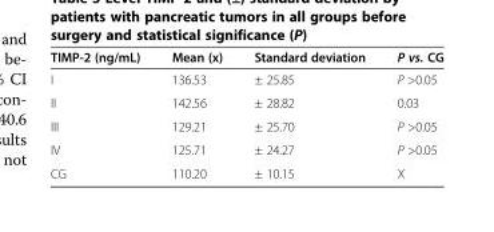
<table><thead><tr><td>TIMP-2 (ng/mL)</td><td>Mean (x)</td><td>Standard deviation</td><td>P vs. CG</td></tr></thead><tbody><tr><td>I</td><td>136.53</td><td>± 25.85</td><td>P &gt;0.05</td></tr><tr><td>II</td><td>142.56</td><td>± 28.82</td><td>0.03</td></tr><tr><td>III</td><td>129.21</td><td>± 25.70</td><td>P &gt;0.05</td></tr><tr><td>IV</td><td>125.71</td><td>± 24.27</td><td>P &gt;0.05</td></tr><tr><td>CG</td><td>110.20</td><td>± 10.15</td><td>X</td></tr></tbody></table>